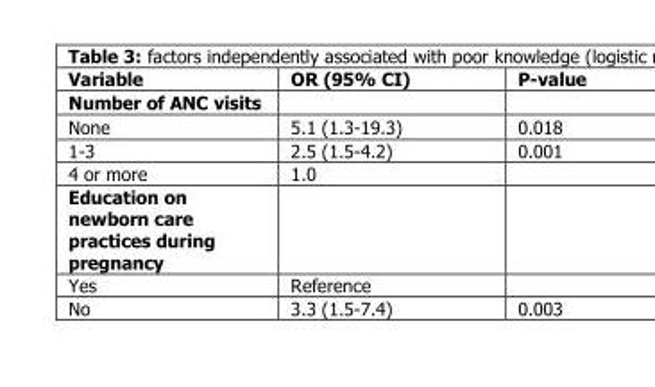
<table><thead><tr><td>Variable</td><td>OR (95% CI)</td><td>P-value</td></tr></thead><tbody><tr><td colspan="3">Number of ANC visits</td></tr><tr><td>None</td><td>5.1 (1.3-19.3)</td><td>0.018</td></tr><tr><td>1-3</td><td>2.5 (1.5-4.2)</td><td>0.001</td></tr><tr><td>4 or more</td><td>1.0</td><td></td></tr><tr><td colspan="3">Education on newborn care practices during pregnancy</td></tr><tr><td>Yes</td><td>Reference</td><td></td></tr><tr><td>No</td><td>3.3 (1.5-7.4)</td><td>0.003</td></tr></tbody></table>